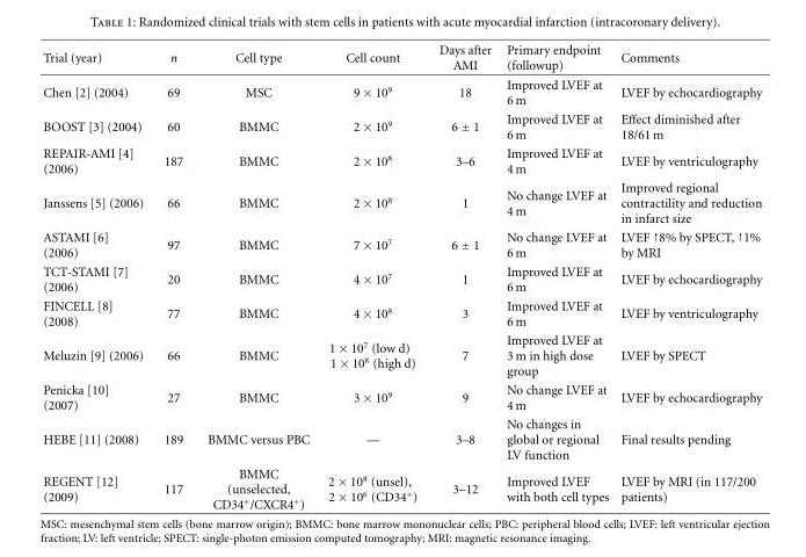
<table><thead><tr><td>Trial (year)</td><td>n</td><td>Cell type</td><td>Cell count</td><td>Days after AMI</td><td>Primary endpoint (followup)</td><td>Comments</td></tr></thead><tbody><tr><td>Chen [2] (2004)</td><td>69</td><td>MSC</td><td>9 × 10<sup>9</sup></td><td>18</td><td>Improved LVEF at 6 m</td><td>LVEF by echocardiography</td></tr><tr><td>BOOST [3] (2004)</td><td>60</td><td>BMMC</td><td>2 × 10<sup>9</sup></td><td>6 ± 1</td><td>Improved LVEF at 6 m</td><td>Effect diminished after 18/61 m</td></tr><tr><td>REPAIR-AMI [4] (2006)</td><td>187</td><td>BMMC</td><td>2 × 10<sup>8</sup></td><td>3–6</td><td>Improved LVEF at 4 m</td><td>LVEF by ventriculography</td></tr><tr><td>Janssens [5] (2006)</td><td>66</td><td>BMMC</td><td>2 × 10<sup>8</sup></td><td>1</td><td>No change LVEF at 4 m</td><td>Improved regional contractility and reduction in infarct size</td></tr><tr><td>ASTAMI [6] (2006)</td><td>97</td><td>BMMC</td><td>7 × 10<sup>7</sup></td><td>6 ± 1</td><td>No change LVEF at 6 m</td><td>LVEF ↑8% by SPECT, ↑1% by MRI</td></tr><tr><td>TCT-STAMI [7] (2006)</td><td>20</td><td>BMMC</td><td>4 × 10<sup>7</sup></td><td>1</td><td>Improved LVEF at 6 m</td><td>LVEF by echocardiography</td></tr><tr><td>FINCELL [8] (2008)</td><td>77</td><td>BMMC</td><td>4 × 10<sup>8</sup></td><td>3</td><td>Improved LVEF at 6 m</td><td>LVEF by ventriculography</td></tr><tr><td>Meluzin [9] (2006)</td><td>66</td><td>BMMC</td><td>1 × 10<sup>7</sup> (low d) 1 × 10<sup>8</sup> (high d)</td><td>7</td><td>Improved LVEF at 3 m in high dose group</td><td>LVEF by SPECT</td></tr><tr><td>Penicka [10] (2007)</td><td>27</td><td>BMMC</td><td>3 × 10<sup>9</sup></td><td>9</td><td>No change LVEF at 4 m</td><td>LVEF by echocardiography</td></tr><tr><td>HEBE [11] (2008)</td><td>189</td><td>BMMC versus PBC</td><td>—</td><td>3–8</td><td>No changes in global or regional LV function</td><td>Final results pending</td></tr><tr><td>REGENT [12] (2009)</td><td>117</td><td>BMMC (unselected, CD34<sup>+</sup>/CXCR4<sup>+</sup>)</td><td>2 × 10<sup>8</sup> (unsel), 2 × 10<sup>6</sup> (CD34<sup>+</sup>)</td><td>3–12</td><td>Improved LVEF with both cell types</td><td>LVEF by MRI (in 117/200 patients)</td></tr></tbody></table>